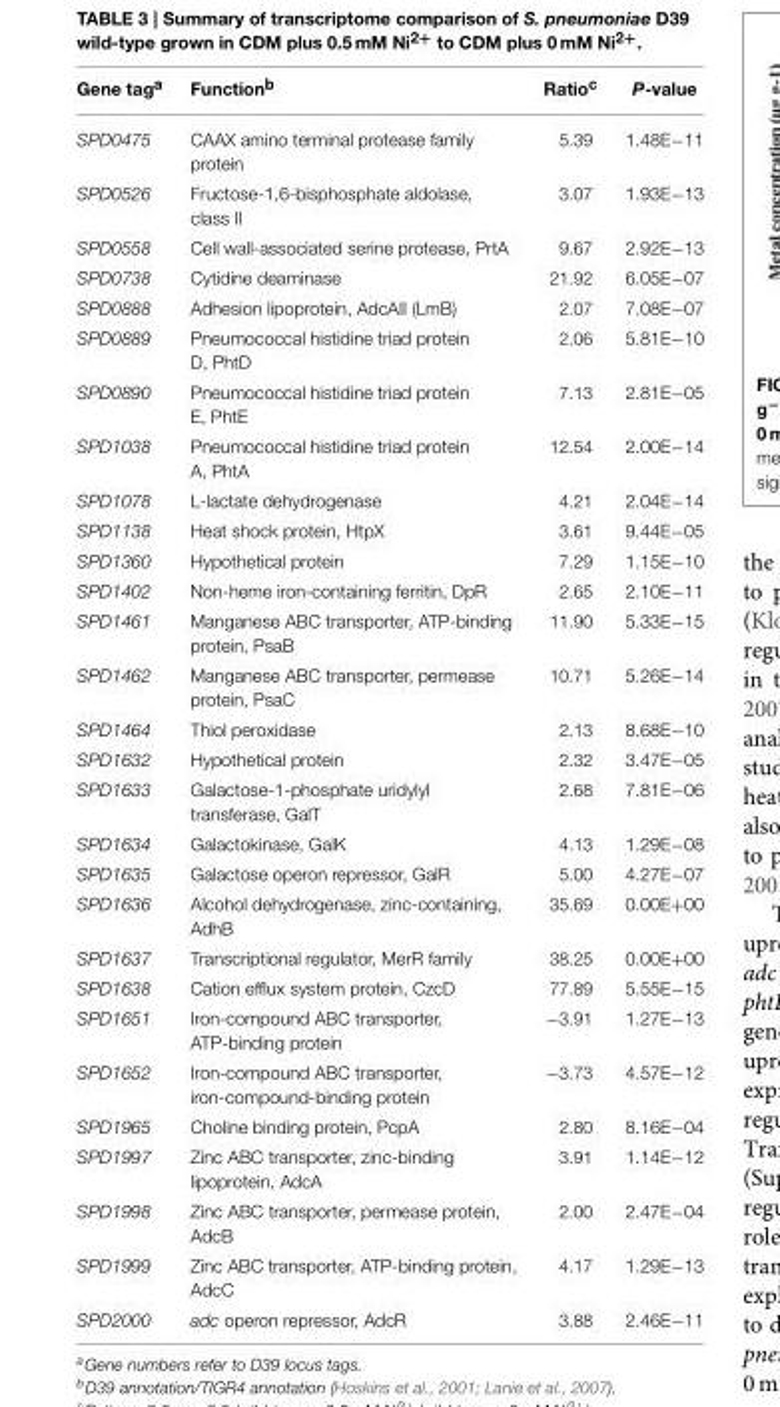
<table><thead><tr><td>Gene tag<sup>a</sup></td><td>Function<sup>b</sup></td><td>Ratio<sup>c</sup></td><td>P-value</td></tr></thead><tbody><tr><td>SPD0475</td><td>CAAX amino terminal protease family protein</td><td>5.39</td><td>1.48E−11</td></tr><tr><td>SPD0526</td><td>Fructose-1,6-bisphosphate aldolase, class II</td><td>3.07</td><td>1.93E−13</td></tr><tr><td>SPD0558</td><td>Cell wall-associated serine protease, PrtA</td><td>9.67</td><td>2.92E−13</td></tr><tr><td>SPD0738</td><td>Cytidine deaminase</td><td>21.92</td><td>6.05E−07</td></tr><tr><td>SPD0888</td><td>Adhesion lipoprotein, AdcAII (LmB)</td><td>2.07</td><td>7.08E−07</td></tr><tr><td>SPD0889</td><td>Pneumococcal histidine triad protein D, PhtD</td><td>2.06</td><td>5.81E−10</td></tr><tr><td>SPD0890</td><td>Pneumococcal histidine triad protein E, PhtE</td><td>7.13</td><td>2.81E−05</td></tr><tr><td>SPD1038</td><td>Pneumococcal histidine triad protein A, PhtA</td><td>12.54</td><td>2.00E−14</td></tr><tr><td>SPD1078</td><td>L-lactate dehydrogenase</td><td>4.21</td><td>2.04E−14</td></tr><tr><td>SPD1138</td><td>Heat shock protein, HtpX</td><td>3.61</td><td>9.44E−05</td></tr><tr><td>SPD1360</td><td>Hypothetical protein</td><td>7.29</td><td>1.15E−10</td></tr><tr><td>SPD1402</td><td>Non-heme iron-containing ferritin, DpR</td><td>2.65</td><td>2.10E−11</td></tr><tr><td>SPD1461</td><td>Manganese ABC transporter, ATP-binding protein, PsaB</td><td>11.90</td><td>5.33E−15</td></tr><tr><td>SPD1462</td><td>Manganese ABC transporter, permease protein, PsaC</td><td>10.71</td><td>5.26E−14</td></tr><tr><td>SPD1464</td><td>Thiol peroxidase</td><td>2.13</td><td>8.68E−10</td></tr><tr><td>SPD1632</td><td>Hypothetical protein</td><td>2.32</td><td>3.47E−05</td></tr><tr><td>SPD1633</td><td>Galactose-1-phosphate uridylyl transferase, GalT</td><td>2.68</td><td>7.81E−06</td></tr><tr><td>SPD1634</td><td>Galactokinase, GalK</td><td>4.13</td><td>1.29E−08</td></tr><tr><td>SPD1635</td><td>Galactose operon repressor, GalR</td><td>5.00</td><td>4.27E−07</td></tr><tr><td>SPD1636</td><td>Alcohol dehydrogenase, zinc-containing, AdhB</td><td>35.69</td><td>0.00E+00</td></tr><tr><td>SPD1637</td><td>Transcriptional regulator, MerR family</td><td>38.25</td><td>0.00E+00</td></tr><tr><td>SPD1638</td><td>Cation efflux system protein, CzcD</td><td>77.89</td><td>5.55E−15</td></tr><tr><td>SPD1651</td><td>Iron-compound ABC transporter, ATP-binding protein</td><td>−3.91</td><td>1.27E−13</td></tr><tr><td>SPD1652</td><td>Iron-compound ABC transporter, iron-compound-binding protein</td><td>−3.73</td><td>4.57E−12</td></tr><tr><td>SPD1965</td><td>Choline binding protein, PcpA</td><td>2.80</td><td>8.16E−04</td></tr><tr><td>SPD1997</td><td>Zinc ABC transporter, zinc-binding lipoprotein, AdcA</td><td>3.91</td><td>1.14E−12</td></tr><tr><td>SPD1998</td><td>Zinc ABC transporter, permease protein, AdcB</td><td>2.00</td><td>2.47E−04</td></tr><tr><td>SPD1999</td><td>Zinc ABC transporter, ATP-binding protein, AdcC</td><td>4.17</td><td>1.29E−13</td></tr><tr><td>SPD2000</td><td>adc operon repressor, AdcR</td><td>3.88</td><td>2.46E−11</td></tr></tbody></table>